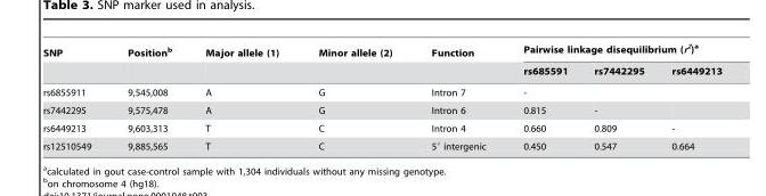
<table><thead><tr><td rowspan="2">SNP</td><td rowspan="2">Position<sup>b</sup></td><td rowspan="2">Major allele (1)</td><td rowspan="2">Minor allele (2)</td><td rowspan="2">Function</td><td colspan="3">Pairwise linkage disequilibrium (r<sup>2</sup>)<sup>a</sup></td></tr><tr><td>rs685591</td><td>rs7442295</td><td>rs6449213</td></tr></thead><tbody><tr><td>rs6855911</td><td>9,545,008</td><td>A</td><td>G</td><td>Intron 7</td><td>-</td><td></td><td></td></tr><tr><td>rs7442295</td><td>9,575,478</td><td>A</td><td>G</td><td>Intron 6</td><td>0.815</td><td>-</td><td></td></tr><tr><td>rs6449213</td><td>9,603,313</td><td>T</td><td>C</td><td>Intron 4</td><td>0.660</td><td>0.809</td><td>-</td></tr><tr><td>rs12510549</td><td>9,885,565</td><td>T</td><td>C</td><td>5′ intergenic</td><td>0.450</td><td>0.547</td><td>0.664</td></tr></tbody></table>